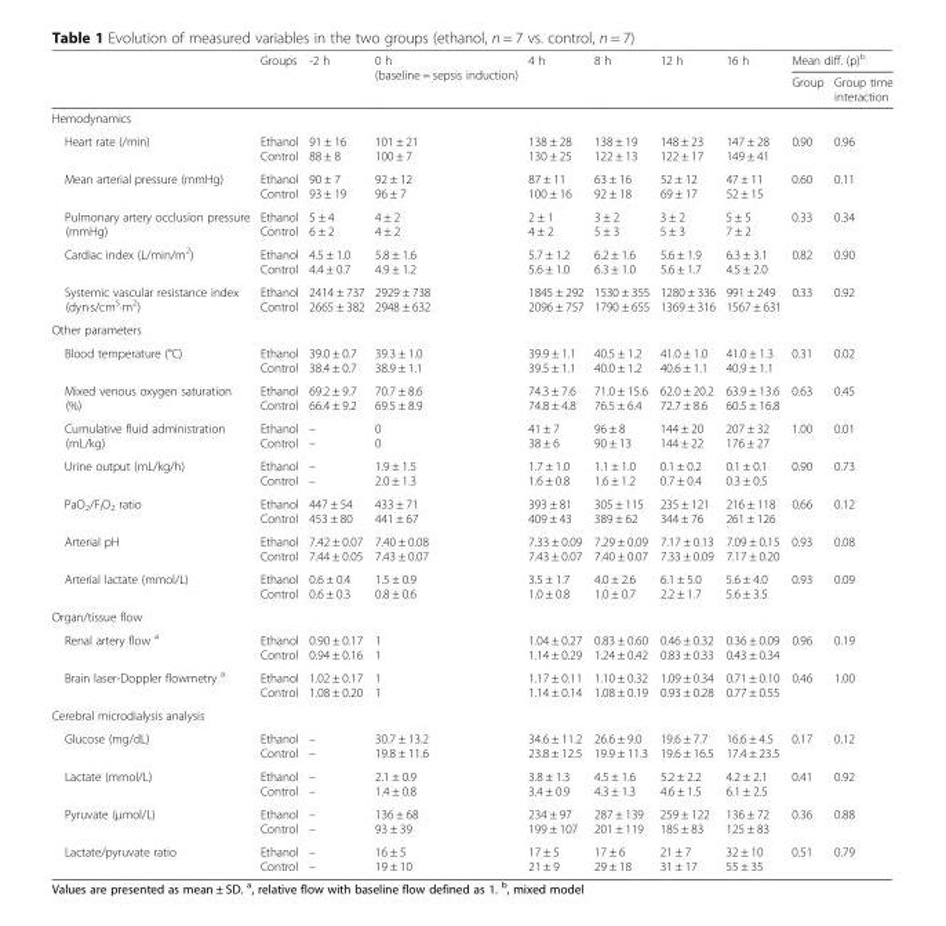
<table><thead><tr><td rowspan="2"></td><td rowspan="2">Groups</td><td rowspan="2">-2 h</td><td rowspan="2">0 h (baseline = sepsis induction)</td><td rowspan="2">4 h</td><td rowspan="2">8 h</td><td rowspan="2">12 h</td><td rowspan="2">16 h</td><td colspan="2">Mean diff. (p)<sup>b</sup></td></tr><tr><td>Group</td><td>Group time interaction</td></tr></thead><tbody><tr><td colspan="10">Hemodynamics</td></tr><tr><td>Heart rate (/min)</td><td>Ethanol Control</td><td>91 ± 16 88 ± 8</td><td>101 ± 21 100 ± 7</td><td>138 ± 28 130 ± 25</td><td>138 ± 19 122 ± 13</td><td>148 ± 23 122 ± 17</td><td>147 ± 28 149 ± 41</td><td>0.90</td><td>0.96</td></tr><tr><td>Mean arterial pressure (mmHg)</td><td>Ethanol Control</td><td>90 ± 7 93 ± 19</td><td>92 ± 12 96 ± 7</td><td>87 ± 11 100 ± 16</td><td>63 ± 16 92 ± 18</td><td>52 ± 12 69 ± 17</td><td>47 ± 11 52 ± 15</td><td>0.60</td><td>0.11</td></tr><tr><td>Pulmonary artery occlusion pressure (mmHg)</td><td>Ethanol Control</td><td>5 ± 4 6 ± 2</td><td>4 ± 2 4 ± 2</td><td>2 ± 1 4 ± 2</td><td>3 ± 2 5 ± 3</td><td>3 ± 2 5 ± 3</td><td>5 ± 5 7 ± 2</td><td>0.33</td><td>0.34</td></tr><tr><td>Cardiac index (L/min/m<sup>2</sup>)</td><td>Ethanol Control</td><td>4.5 ± 1.0 4.4 ± 0.7</td><td>5.8 ± 1.6 4.9 ± 1.2</td><td>5.7 ± 1.2 5.6 ± 1.0</td><td>6.2 ± 1.6 6.3 ± 1.0</td><td>5.6 ± 1.9 5.6 ± 1.7</td><td>6.3 ± 3.1 4.5 ± 2.0</td><td>0.82</td><td>0.90</td></tr><tr><td>Systemic vascular resistance index (dyn·s/cm<sup>5</sup>·m<sup>2</sup>)</td><td>Ethanol Control</td><td>2414 ± 737 2665 ± 382</td><td>2929 ± 738 2948 ± 632</td><td>1845 ± 292 2096 ± 757</td><td>1530 ± 355 1790 ± 655</td><td>1280 ± 336 1369 ± 316</td><td>991 ± 249 1567 ± 631</td><td>0.33</td><td>0.92</td></tr><tr><td colspan="10">Other parameters</td></tr><tr><td>Blood temperature (°C)</td><td>Ethanol Control</td><td>39.0 ± 0.7 38.4 ± 0.7</td><td>39.3 ± 1.0 38.9 ± 1.1</td><td>39.9 ± 1.1 39.5 ± 1.1</td><td>40.5 ± 1.2 40.0 ± 1.2</td><td>41.0 ± 1.0 40.6 ± 1.1</td><td>41.0 ± 1.3 40.9 ± 1.1</td><td>0.31</td><td>0.02</td></tr><tr><td>Mixed venous oxygen saturation (%)</td><td>Ethanol Control</td><td>69.2 ± 9.7 66.4 ± 9.2</td><td>70.7 ± 8.6 69.5 ± 8.9</td><td>74.3 ± 7.6 74.8 ± 4.8</td><td>71.0 ± 15.6 76.5 ± 6.4</td><td>62.0 ± 20.2 72.7 ± 8.6</td><td>63.9 ± 13.6 60.5 ± 16.8</td><td>0.63</td><td>0.45</td></tr><tr><td>Cumulative fluid administration (mL/kg)</td><td>Ethanol Control</td><td>– –</td><td>0 0</td><td>41 ± 7 38 ± 6</td><td>96 ± 8 90 ± 13</td><td>144 ± 20 144 ± 22</td><td>207 ± 32 176 ± 27</td><td>1.00</td><td>0.01</td></tr><tr><td>Urine output (mL/kg/h)</td><td>Ethanol Control</td><td>– –</td><td>1.9 ± 1.5 2.0 ± 1.3</td><td>1.7 ± 1.0 1.6 ± 0.8</td><td>1.1 ± 1.0 1.6 ± 1.2</td><td>0.1 ± 0.2 0.7 ± 0.4</td><td>0.1 ± 0.1 0.3 ± 0.5</td><td>0.90</td><td>0.73</td></tr><tr><td>PaO<sub>2</sub>/F<sub>I</sub>O<sub>2</sub> ratio</td><td>Ethanol Control</td><td>447 ± 54 453 ± 80</td><td>433 ± 71 441 ± 67</td><td>393 ± 81 409 ± 43</td><td>305 ± 115 389 ± 62</td><td>235 ± 121 344 ± 76</td><td>216 ± 118 261 ± 126</td><td>0.66</td><td>0.12</td></tr><tr><td>Arterial pH</td><td>Ethanol Control</td><td>7.42 ± 0.07 7.44 ± 0.05</td><td>7.40 ± 0.08 7.43 ± 0.07</td><td>7.33 ± 0.09 7.43 ± 0.07</td><td>7.29 ± 0.09 7.40 ± 0.07</td><td>7.17 ± 0.13 7.33 ± 0.09</td><td>7.09 ± 0.15 7.17 ± 0.20</td><td>0.93</td><td>0.08</td></tr><tr><td>Arterial lactate (mmol/L)</td><td>Ethanol Control</td><td>0.6 ± 0.4 0.6 ± 0.3</td><td>1.5 ± 0.9 0.8 ± 0.6</td><td>3.5 ± 1.7 1.0 ± 0.8</td><td>4.0 ± 2.6 1.0 ± 0.7</td><td>6.1 ± 5.0 2.2 ± 1.7</td><td>5.6 ± 4.0 5.6 ± 3.5</td><td>0.93</td><td>0.09</td></tr><tr><td colspan="10">Organ/tissue flow</td></tr><tr><td>Renal artery flow <sup>a</sup></td><td>Ethanol Control</td><td>0.90 ± 0.17 0.94 ± 0.16</td><td>1 1</td><td>1.04 ± 0.27 1.14 ± 0.29</td><td>0.83 ± 0.60 1.24 ± 0.42</td><td>0.46 ± 0.32 0.83 ± 0.33</td><td>0.36 ± 0.09 0.43 ± 0.34</td><td>0.96</td><td>0.19</td></tr><tr><td>Brain laser-Doppler flowmetry <sup>a</sup></td><td>Ethanol Control</td><td>1.02 ± 0.17 1.08 ± 0.20</td><td>1 1</td><td>1.17 ± 0.11 1.14 ± 0.14</td><td>1.10 ± 0.32 1.08 ± 0.19</td><td>1.09 ± 0.34 0.93 ± 0.28</td><td>0.71 ± 0.10 0.77 ± 0.55</td><td>0.46</td><td>1.00</td></tr><tr><td colspan="10">Cerebral microdialysis analysis</td></tr><tr><td>Glucose (mg/dL)</td><td>Ethanol Control</td><td>– –</td><td>30.7 ± 13.2 19.8 ± 11.6</td><td>34.6 ± 11.2 23.8 ± 12.5</td><td>26.6 ± 9.0 19.9 ± 11.3</td><td>19.6 ± 7.7 19.6 ± 16.5</td><td>16.6 ± 4.5 17.4 ± 23.5</td><td>0.17</td><td>0.12</td></tr><tr><td>Lactate (mmol/L)</td><td>Ethanol Control</td><td>– –</td><td>2.1 ± 0.9 1.4 ± 0.8</td><td>3.8 ± 1.3 3.4 ± 0.9</td><td>4.5 ± 1.6 4.3 ± 1.3</td><td>5.2 ± 2.2 4.6 ± 1.5</td><td>4.2 ± 2.1 6.1 ± 2.5</td><td>0.41</td><td>0.92</td></tr><tr><td>Pyruvate (μmol/L)</td><td>Ethanol Control</td><td>– –</td><td>136 ± 68 93 ± 39</td><td>234 ± 97 199 ± 107</td><td>287 ± 139 201 ± 119</td><td>259 ± 122 185 ± 83</td><td>136 ± 72 125 ± 83</td><td>0.36</td><td>0.88</td></tr><tr><td>Lactate/pyruvate ratio</td><td>Ethanol Control</td><td>– –</td><td>16 ± 5 19 ± 10</td><td>17 ± 5 21 ± 9</td><td>17 ± 6 29 ± 18</td><td>21 ± 7 31 ± 17</td><td>32 ± 10 55 ± 35</td><td>0.51</td><td>0.79</td></tr></tbody></table>